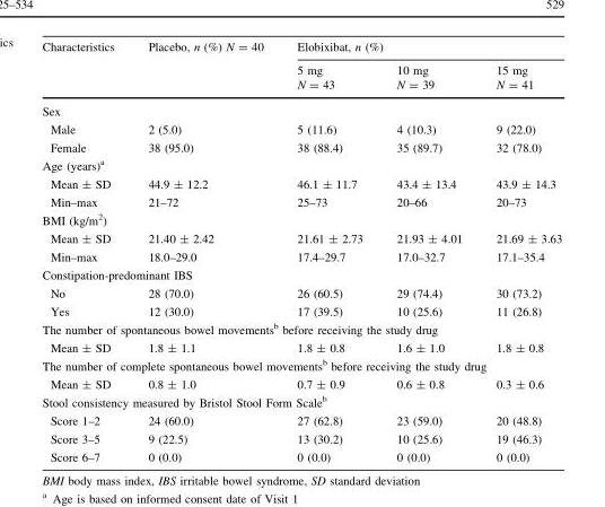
<table><thead><tr><td rowspan="2">Characteristics</td><td rowspan="2">Placebo, n (%) N = 40</td><td colspan="3">Elobixibat, n (%)</td></tr><tr><td>5 mg N = 43</td><td>10 mg N = 39</td><td>15 mg N = 41</td></tr></thead><tbody><tr><td colspan="5">Sex</td></tr><tr><td>Male</td><td>2 (5.0)</td><td>5 (11.6)</td><td>4 (10.3)</td><td>9 (22.0)</td></tr><tr><td>Female</td><td>38 (95.0)</td><td>38 (88.4)</td><td>35 (89.7)</td><td>32 (78.0)</td></tr><tr><td colspan="5">Age (years)<sup>a</sup></td></tr><tr><td>Mean ± SD</td><td>44.9 ± 12.2</td><td>46.1 ± 11.7</td><td>43.4 ± 13.4</td><td>43.9 ± 14.3</td></tr><tr><td>Min–max</td><td>21–72</td><td>25–73</td><td>20–66</td><td>20–73</td></tr><tr><td colspan="5">BMI (kg/m<sup>2</sup>)</td></tr><tr><td>Mean ± SD</td><td>21.40 ± 2.42</td><td>21.61 ± 2.73</td><td>21.93 ± 4.01</td><td>21.69 ± 3.63</td></tr><tr><td>Min–max</td><td>18.0–29.0</td><td>17.4–29.7</td><td>17.0–32.7</td><td>17.1–35.4</td></tr><tr><td colspan="5">Constipation-predominant IBS</td></tr><tr><td>No</td><td>28 (70.0)</td><td>26 (60.5)</td><td>29 (74.4)</td><td>30 (73.2)</td></tr><tr><td>Yes</td><td>12 (30.0)</td><td>17 (39.5)</td><td>10 (25.6)</td><td>11 (26.8)</td></tr><tr><td colspan="5">The number of spontaneous bowel movements<sup>b</sup> before receiving the study drug</td></tr><tr><td>Mean ± SD</td><td>1.8 ± 1.1</td><td>1.8 ± 0.8</td><td>1.6 ± 1.0</td><td>1.8 ± 0.8</td></tr><tr><td colspan="5">The number of complete spontaneous bowel movements<sup>b</sup> before receiving the study drug</td></tr><tr><td>Mean ± SD</td><td>0.8 ± 1.0</td><td>0.7 ± 0.9</td><td>0.6 ± 0.8</td><td>0.3 ± 0.6</td></tr><tr><td colspan="5">Stool consistency measured by Bristol Stool Form Scale<sup>b</sup></td></tr><tr><td>Score 1–2</td><td>24 (60.0)</td><td>27 (62.8)</td><td>23 (59.0)</td><td>20 (48.8)</td></tr><tr><td>Score 3–5</td><td>9 (22.5)</td><td>13 (30.2)</td><td>10 (25.6)</td><td>19 (46.3)</td></tr><tr><td>Score 6–7</td><td>0 (0.0)</td><td>0 (0.0)</td><td>0 (0.0)</td><td>0 (0.0)</td></tr></tbody></table>